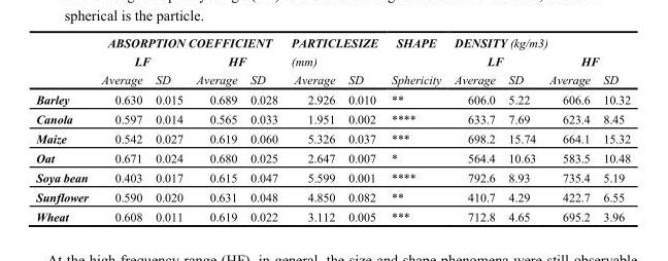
<table><thead><tr><td rowspan="3"></td><td colspan="4">ABSORPTION COEFFICIENT</td><td colspan="2">PARTICLESIZE</td><td rowspan="3">SHAPE Sphericity</td><td colspan="4">DENSITY (kg/m3)</td></tr><tr><td colspan="2">LF</td><td colspan="2">HF</td><td rowspan="2">(mm) Average</td><td rowspan="2">SD</td><td colspan="2">LF</td><td colspan="2">HF</td></tr><tr><td>Average</td><td>SD</td><td>Average</td><td>SD</td><td>Average</td><td>SD</td><td>Average</td><td>SD</td></tr></thead><tbody><tr><td>Barley</td><td>0.630</td><td>0.015</td><td>0.689</td><td>0.028</td><td>2.926</td><td>0.010</td><td>**</td><td>606.0</td><td>5.22</td><td>606.6</td><td>10.32</td></tr><tr><td>Canola</td><td>0.597</td><td>0.014</td><td>0.565</td><td>0.033</td><td>1.951</td><td>0.002</td><td>****</td><td>633.7</td><td>7.69</td><td>623.4</td><td>8.45</td></tr><tr><td>Maize</td><td>0.542</td><td>0.027</td><td>0.619</td><td>0.060</td><td>5.326</td><td>0.037</td><td>***</td><td>698.2</td><td>15.74</td><td>664.1</td><td>15.32</td></tr><tr><td>Oat</td><td>0.671</td><td>0.024</td><td>0.680</td><td>0.025</td><td>2.647</td><td>0.007</td><td>*</td><td>564.4</td><td>10.63</td><td>583.5</td><td>10.48</td></tr><tr><td>Soya bean</td><td>0.403</td><td>0.017</td><td>0.615</td><td>0.047</td><td>5.599</td><td>0.001</td><td>****</td><td>792.6</td><td>8.93</td><td>735.4</td><td>5.19</td></tr><tr><td>Sunflower</td><td>0.590</td><td>0.020</td><td>0.631</td><td>0.048</td><td>4.850</td><td>0.082</td><td>**</td><td>410.7</td><td>4.29</td><td>422.7</td><td>6.55</td></tr><tr><td>Wheat</td><td>0.608</td><td>0.011</td><td>0.619</td><td>0.022</td><td>3.112</td><td>0.005</td><td>***</td><td>712.8</td><td>4.65</td><td>695.2</td><td>3.96</td></tr></tbody></table>